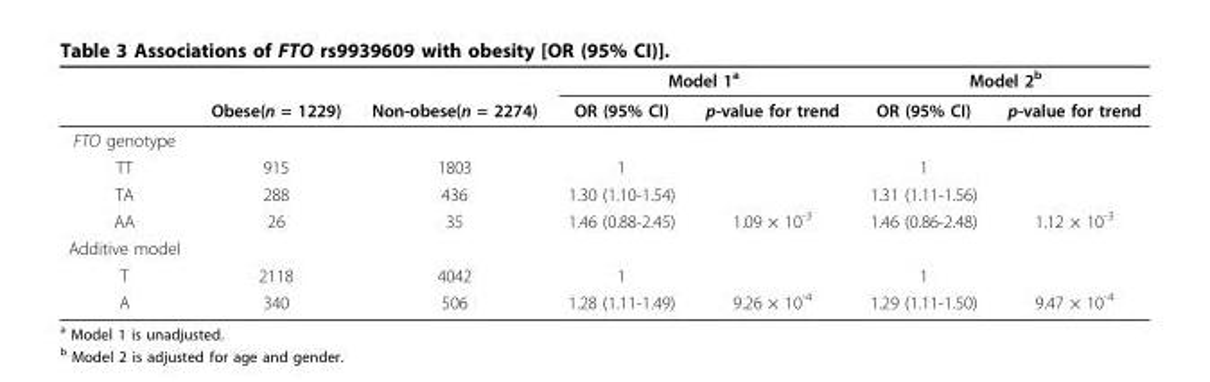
<table><thead><tr><td rowspan="2"></td><td rowspan="2">Obese(n = 1229)</td><td rowspan="2">Non-obese(n = 2274)</td><td colspan="2">Model 1<sup>a</sup></td><td colspan="2">Model 2<sup>b</sup></td></tr><tr><td>OR (95% CI)</td><td>p-value for trend</td><td>OR (95% CI)</td><td>p-value for trend</td></tr></thead><tbody><tr><td colspan="7">FTO genotype</td></tr><tr><td>TT</td><td>915</td><td>1803</td><td>1</td><td></td><td>1</td><td></td></tr><tr><td>TA</td><td>288</td><td>436</td><td>1.30 (1.10-1.54)</td><td></td><td>1.31 (1.11-1.56)</td><td></td></tr><tr><td>AA</td><td>26</td><td>35</td><td>1.46 (0.88-2.45)</td><td>1.09 × 10<sup>-3</sup></td><td>1.46 (0.86-2.48)</td><td>1.12 × 10<sup>-3</sup></td></tr><tr><td colspan="7">Additive model</td></tr><tr><td>T</td><td>2118</td><td>4042</td><td>1</td><td></td><td>1</td><td></td></tr><tr><td>A</td><td>340</td><td>506</td><td>1.28 (1.11-1.49)</td><td>9.26 × 10<sup>-4</sup></td><td>1.29 (1.11-1.50)</td><td>9.47 × 10<sup>-4</sup></td></tr></tbody></table>